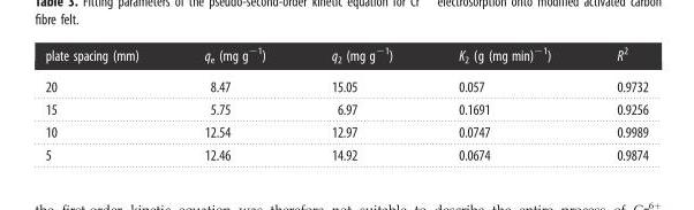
<table><thead><tr><td>plate spacing (mm)</td><td>q<sub>e</sub> (mg g<sup>−1</sup>)</td><td>q<sub>2</sub> (mg g<sup>−1</sup>)</td><td>K<sub>2</sub> (g (mg min)<sup>−1</sup>)</td><td>R<sup>2</sup></td></tr></thead><tbody><tr><td>20</td><td>8.47</td><td>15.05</td><td>0.057</td><td>0.9732</td></tr><tr><td>15</td><td>5.75</td><td>6.97</td><td>0.1691</td><td>0.9256</td></tr><tr><td>10</td><td>12.54</td><td>12.97</td><td>0.0747</td><td>0.9989</td></tr><tr><td>5</td><td>12.46</td><td>14.92</td><td>0.0674</td><td>0.9874</td></tr></tbody></table>